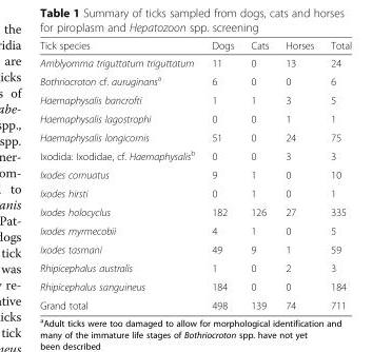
<table><thead><tr><td>Tick species</td><td>Dogs</td><td>Cats</td><td>Horses</td><td>Total</td></tr></thead><tbody><tr><td>Amblyomma triguttatum triguttatum</td><td>11</td><td>0</td><td>13</td><td>24</td></tr><tr><td>Bothriocroton cf. auruginans<sup>a</sup></td><td>6</td><td>0</td><td>0</td><td>6</td></tr><tr><td>Haemaphysalis bancrofti</td><td>1</td><td>1</td><td>3</td><td>5</td></tr><tr><td>Haemaphysalis lagostrophi</td><td>0</td><td>0</td><td>1</td><td>1</td></tr><tr><td>Haemaphysalis longicornis</td><td>51</td><td>0</td><td>24</td><td>75</td></tr><tr><td>Ixodida: Ixodidae, cf. Haemaphysalis<sup>b</sup></td><td>0</td><td>0</td><td>3</td><td>3</td></tr><tr><td>Ixodes cornuatus</td><td>9</td><td>1</td><td>0</td><td>10</td></tr><tr><td>Ixodes hirsti</td><td>0</td><td>1</td><td>0</td><td>1</td></tr><tr><td>Ixodes holocyclus</td><td>182</td><td>126</td><td>27</td><td>335</td></tr><tr><td>Ixodes myrmecobii</td><td>4</td><td>1</td><td>0</td><td>5</td></tr><tr><td>Ixodes tasmani</td><td>49</td><td>9</td><td>1</td><td>59</td></tr><tr><td>Rhipicephalus australis</td><td>1</td><td>0</td><td>2</td><td>3</td></tr><tr><td>Rhipicephalus sanguineus</td><td>184</td><td>0</td><td>0</td><td>184</td></tr><tr><td>Grand total</td><td>498</td><td>139</td><td>74</td><td>711</td></tr></tbody></table>